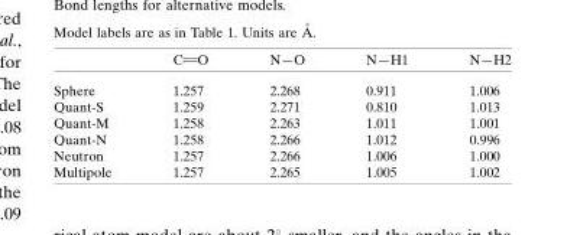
<table><thead><tr><td></td><td>C O</td><td>N—O</td><td>N—H1</td><td>N—H2</td></tr></thead><tbody><tr><td>Sphere</td><td>1.257</td><td>2.268</td><td>0.911</td><td>1.006</td></tr><tr><td>Quant-S</td><td>1.259</td><td>2.271</td><td>0.810</td><td>1.013</td></tr><tr><td>Quant-M</td><td>1.258</td><td>2.263</td><td>1.011</td><td>1.001</td></tr><tr><td>Quant-N</td><td>1.258</td><td>2.266</td><td>1.012</td><td>0.996</td></tr><tr><td>Neutron</td><td>1.257</td><td>2.266</td><td>1.006</td><td>1.000</td></tr><tr><td>Multipole</td><td>1.257</td><td>2.265</td><td>1.005</td><td>1.002</td></tr></tbody></table>